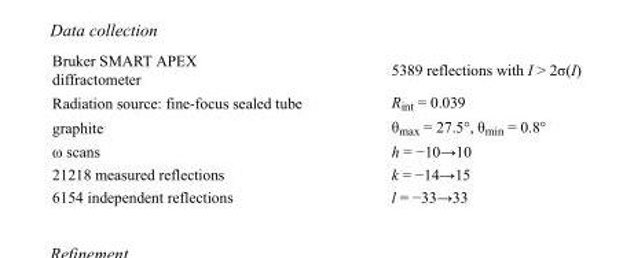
<table><tbody><tr><td>Bruker SMART APEX diffractometer</td><td>5389 reflections with I &gt; 2σ(I)</td></tr><tr><td>Radiation source: fine-focus sealed tube</td><td>R<sub>int</sub> = 0.039</td></tr><tr><td>graphite</td><td>θ<sub>max</sub> = 27.5°, θ<sub>min</sub> = 0.8°</td></tr><tr><td>ω scans</td><td>h = −10→10</td></tr><tr><td>21218 measured reflections</td><td>k = −14→15</td></tr><tr><td>6154 independent reflections</td><td>l = −33→33</td></tr></tbody></table>